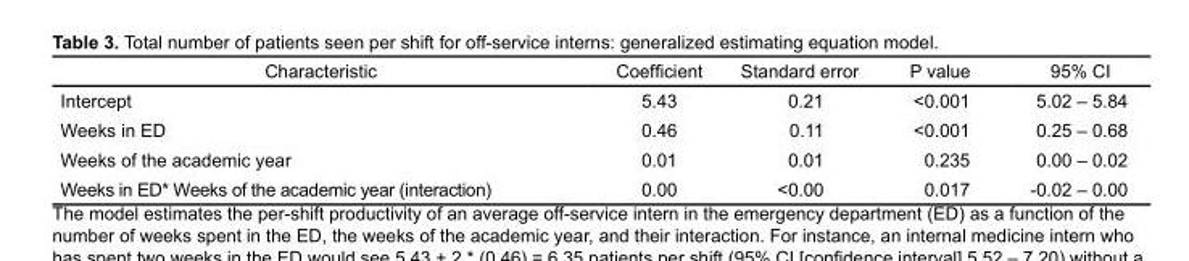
<table><thead><tr><td>Characteristic</td><td>Coefficient</td><td>Standard error</td><td>P value</td><td>95% CI</td></tr></thead><tbody><tr><td>Intercept</td><td>5.43</td><td>0.21</td><td>&lt;0.001</td><td>5.02 – 5.84</td></tr><tr><td>Weeks in ED</td><td>0.46</td><td>0.11</td><td>&lt;0.001</td><td>0.25 – 0.68</td></tr><tr><td>Weeks of the academic year</td><td>0.01</td><td>0.01</td><td>0.235</td><td>0.00 – 0.02</td></tr><tr><td>Weeks in ED* Weeks of the academic year (interaction)</td><td>0.00</td><td>&lt;0.00</td><td>0.017</td><td>-0.02 – 0.00</td></tr></tbody></table>